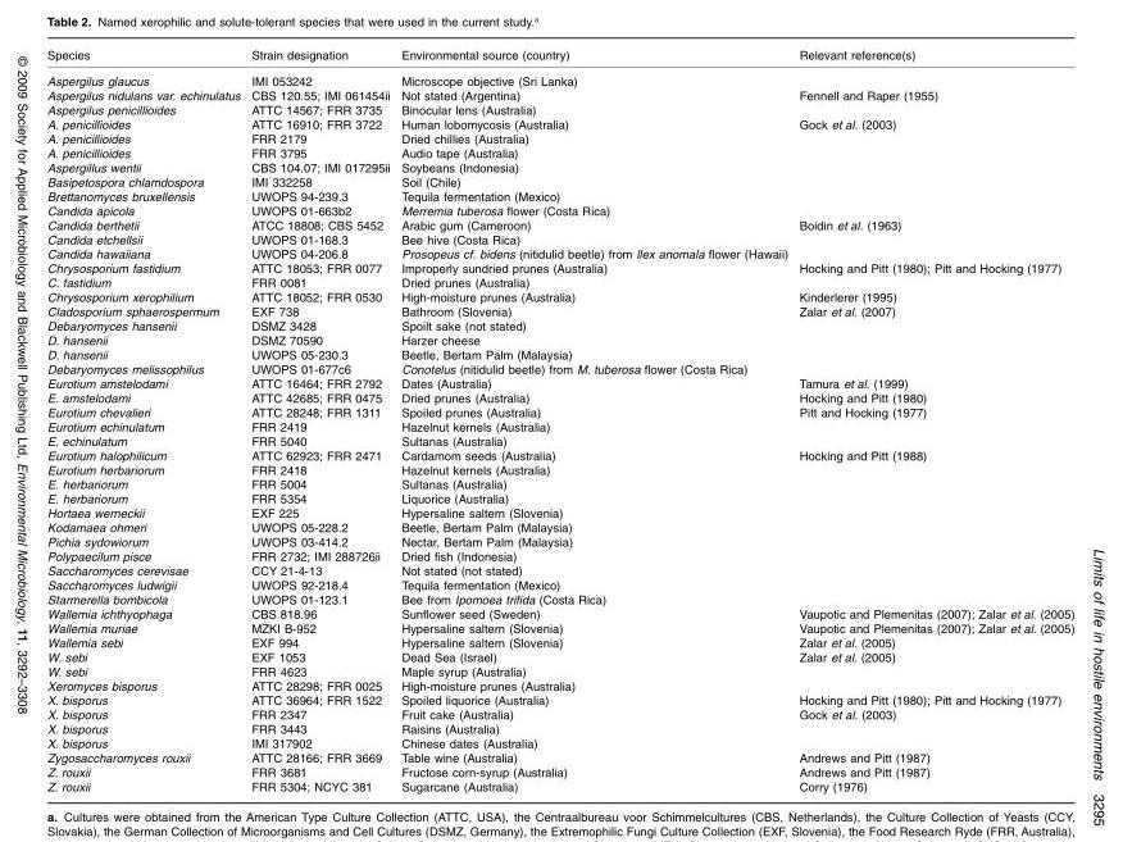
<table><thead><tr><td>Species</td><td>Strain designation</td><td>Environmental source (country)</td><td>Relevant reference(s)</td></tr></thead><tbody><tr><td>Aspergilus glaucus</td><td>IMI 053242</td><td>Microscope objective (Sri Lanka)</td><td></td></tr><tr><td>Aspergilus nidulans var. echinulatus</td><td>CBS 120.55; IMI 061454ii</td><td>Not stated (Argentina)</td><td>Fennell and Raper (1955)</td></tr><tr><td>Aspergilus penicillioides</td><td>ATTC 14567; FRR 3735</td><td>Binocular lens (Australia)</td><td></td></tr><tr><td>A. penicillioides</td><td>ATTC 16910; FRR 3722</td><td>Human lobomycosis (Australia)</td><td>Gock et al. (2003)</td></tr><tr><td>A. penicillioides</td><td>FRR 2179</td><td>Dried chillies (Australia)</td><td></td></tr><tr><td>A. penicillioides</td><td>FRR 3795</td><td>Audio tape (Australia)</td><td></td></tr><tr><td>Aspergillus wentii</td><td>CBS 104.07; IMI 017295ii</td><td>Soybeans (Indonesia)</td><td></td></tr><tr><td>Basipetospora chlamdospora</td><td>IMI 332258</td><td>Soil (Chile)</td><td></td></tr><tr><td>Brettanomyces bruxellensis</td><td>UWOPS 94-239.3</td><td>Tequila fermentation (Mexico)</td><td></td></tr><tr><td>Candida apicola</td><td>UWOPS 01-663b2</td><td>Merremia tuberosa flower (Costa Rica)</td><td></td></tr><tr><td>Candida berthetii</td><td>ATCC 18808; CBS 5452</td><td>Arabic gum (Cameroon)</td><td>Boidin et al. (1963)</td></tr><tr><td>Candida etchellsii</td><td>UWOPS 01-168.3</td><td>Bee hive (Costa Rica)</td><td></td></tr><tr><td>Candida hawaiiana</td><td>UWOPS 04-206.8</td><td>Prosopeus cf. bidens (nitidulid beetle) from llex anomala flower (Hawaii)</td><td></td></tr><tr><td>Chrysosporium fastidium</td><td>ATTC 18053; FRR 0077</td><td>Improperly sundried prunes (Australia)</td><td>Hocking and Pitt (1980); Pitt and Hocking (1977)</td></tr><tr><td>C. fastidium</td><td>FRR 0081</td><td>Dried prunes (Australia)</td><td></td></tr><tr><td>Chrysosporium xerophilium</td><td>ATTC 18052; FRR 0530</td><td>High-moisture prunes (Australia)</td><td>Kinderlerer (1995)</td></tr><tr><td>Cladosporium sphaerospermum</td><td>EXF 738</td><td>Bathroom (Slovenia)</td><td>Zalar et al. (2007)</td></tr><tr><td>Debaryomyces hansenii</td><td>DSMZ 3428</td><td>Spoilt sake (not stated)</td><td></td></tr><tr><td>D. hansenii</td><td>DSMZ 70590</td><td>Harzer cheese</td><td></td></tr><tr><td>D. hansenii</td><td>UWOPS 05-230.3</td><td>Beetle, Bertam Palm (Malaysia)</td><td></td></tr><tr><td>Debaryomyces melissophilus</td><td>UWOPS 01-677c6</td><td>Conotelus (nitidulid beetle) from M. tuberosa flower (Costa Rica)</td><td></td></tr><tr><td>Eurotium amstelodami</td><td>ATTC 16464; FRR 2792</td><td>Dates (Australia)</td><td>Tamura et al. (1999)</td></tr><tr><td>E. amstelodami</td><td>ATTC 42685; FRR 0475</td><td>Dried prunes (Australia)</td><td>Hocking and Pitt (1980)</td></tr><tr><td>Eurotium chevalieri</td><td>ATTC 28248; FRR 1311</td><td>Spoiled prunes (Australia)</td><td>Pitt and Hocking (1977)</td></tr><tr><td>Eurotium echinulatum</td><td>FRR 2419</td><td>Hazelnut kernels (Australia)</td><td></td></tr><tr><td>E. echinulatum</td><td>FRR 5040</td><td>Sultanas (Australia)</td><td></td></tr><tr><td>Eurotium halophilicum</td><td>ATTC 62923; FRR 2471</td><td>Cardamom seeds (Australia)</td><td>Hocking and Pitt (1988)</td></tr><tr><td>Eurotium herbariorum</td><td>FRR 2418</td><td>Hazelnut kernels (Australia)</td><td></td></tr><tr><td>E. herbariorum</td><td>FRR 5004</td><td>Sultanas (Australia)</td><td></td></tr><tr><td>E. herbariorum</td><td>FRR 5354</td><td>Liquorice (Australia)</td><td></td></tr><tr><td>Hortaea werneckii</td><td>EXF 225</td><td>Hypersaline saltern (Slovenia)</td><td></td></tr><tr><td>Kodamaea ohmeri</td><td>UWOPS 05-228.2</td><td>Beetle, Bertam Palm (Malaysia)</td><td></td></tr><tr><td>Pichia sydowiorum</td><td>UWOPS 03-414.2</td><td>Nectar, Bertam Palm (Malaysia)</td><td></td></tr><tr><td>Polypaecilum pisce</td><td>FRR 2732; IMI 288726ii</td><td>Dried fish (Indonesia)</td><td></td></tr><tr><td>Saccharomyces cerevisae</td><td>CCY 21-4-13</td><td>Not stated (not stated)</td><td></td></tr><tr><td>Saccharomyces ludwigii</td><td>UWOPS 92-218.4</td><td>Tequila fermentation (Mexico)</td><td></td></tr><tr><td>Starmerella bombicola</td><td>UWOPS 01-123.1</td><td>Bee from Ipomoea trifida (Costa Rica)</td><td></td></tr><tr><td>Wallemia ichthyophaga</td><td>CBS 818.96</td><td>Sunflower seed (Sweden)</td><td>Vaupotic and Plemenitas (2007); Zalar et al. (2005)</td></tr><tr><td>Wallemia muriae</td><td>MZKI B-952</td><td>Hypersaline saltern (Slovenia)</td><td>Vaupotic and Plemenitas (2007); Zalar et al. (2005)</td></tr><tr><td>Wallemia sebi</td><td>EXF 994</td><td>Hypersaline saltern (Slovenia)</td><td>Zalar et al. (2005)</td></tr><tr><td>W. sebi</td><td>EXF 1053</td><td>Dead Sea (Israel)</td><td>Zalar et al. (2005)</td></tr><tr><td>W. sebi</td><td>FRR 4623</td><td>Maple syrup (Australia)</td><td></td></tr><tr><td>Xeromyces bisporus</td><td>ATTC 28298; FRR 0025</td><td>High-moisture prunes (Australia)</td><td></td></tr><tr><td>X. bisporus</td><td>ATTC 36964; FRR 1522</td><td>Spoiled liquorice (Australia)</td><td>Hocking and Pitt (1980); Pitt and Hocking (1977)</td></tr><tr><td>X. bisporus</td><td>FRR 2347</td><td>Fruit cake (Australia)</td><td>Gock et al. (2003)</td></tr><tr><td>X. bisporus</td><td>FRR 3443</td><td>Raisins (Australia)</td><td></td></tr><tr><td>X. bisporus</td><td>IMI 317902</td><td>Chinese dates (Australia)</td><td></td></tr><tr><td>Zygosaccharomyces rouxii</td><td>ATTC 28166; FRR 3669</td><td>Table wine (Australia)</td><td>Andrews and Pitt (1987)</td></tr><tr><td>Z. rouxii</td><td>FRR 3681</td><td>Fructose corn-syrup (Australia)</td><td>Andrews and Pitt (1987)</td></tr><tr><td>Z. rouxii</td><td>FRR 5304; NCYC 381</td><td>Sugarcane (Australia)</td><td>Corry (1976)</td></tr></tbody></table>